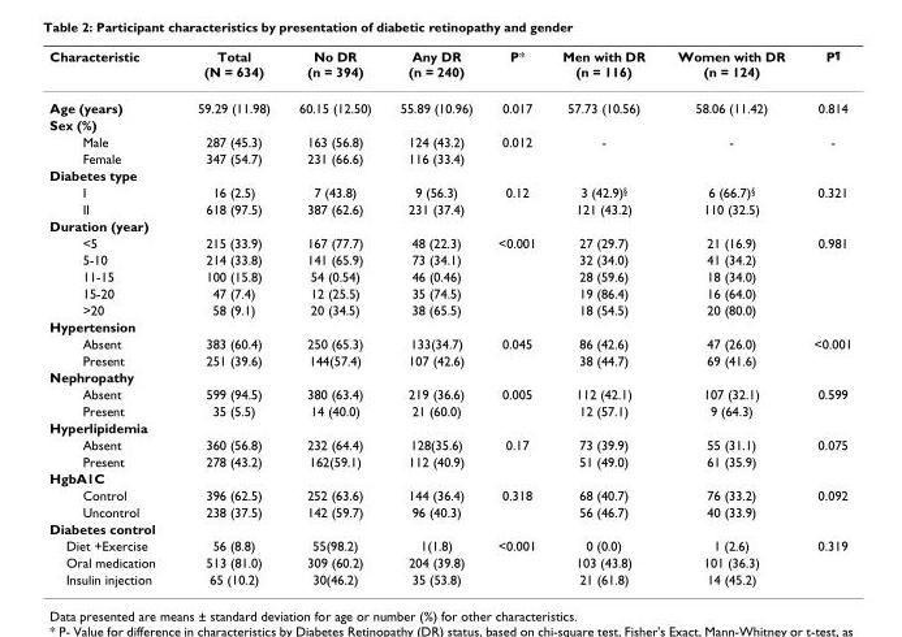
<table><thead><tr><td>Characteristic</td><td>Total (N = 634)</td><td>No DR (n = 394)</td><td>Any DR (n = 240)</td><td>P*</td><td>Men with DR (n = 116)</td><td>Women with DR (n = 124)</td><td>P<sup>¶</sup></td></tr></thead><tbody><tr><td>Age (years)</td><td>59.29 (11.98)</td><td>60.15 (12.50)</td><td>55.89 (10.96)</td><td>0.017</td><td>57.73 (10.56)</td><td>58.06 (11.42)</td><td>0.814</td></tr><tr><td colspan="8">Sex (%)</td></tr><tr><td>Male</td><td>287 (45.3)</td><td>163 (56.8)</td><td>124 (43.2)</td><td>0.012</td><td>-</td><td>-</td><td>-</td></tr><tr><td>Female</td><td>347 (54.7)</td><td>231 (66.6)</td><td>116 (33.4)</td><td></td><td></td><td></td><td></td></tr><tr><td colspan="8">Diabetes type</td></tr><tr><td>I</td><td>16 (2.5)</td><td>7 (43.8)</td><td>9 (56.3)</td><td>0.12</td><td>3 (42.9)<sup>§</sup></td><td>6 (66.7)<sup>§</sup></td><td>0.321</td></tr><tr><td>II</td><td>618 (97.5)</td><td>387 (62.6)</td><td>231 (37.4)</td><td></td><td>121 (43.2)</td><td>110 (32.5)</td><td></td></tr><tr><td colspan="8">Duration (year)</td></tr><tr><td>&lt;5</td><td>215 (33.9)</td><td>167 (77.7)</td><td>48 (22.3)</td><td>&lt;0.001</td><td>27 (29.7)</td><td>21 (16.9)</td><td>0.981</td></tr><tr><td>5-10</td><td>214 (33.8)</td><td>141 (65.9)</td><td>73 (34.1)</td><td></td><td>32 (34.0)</td><td>41 (34.2)</td><td></td></tr><tr><td>11-15</td><td>100 (15.8)</td><td>54 (0.54)</td><td>46 (0.46)</td><td></td><td>28 (59.6)</td><td>18 (34.0)</td><td></td></tr><tr><td>15-20</td><td>47 (7.4)</td><td>12 (25.5)</td><td>35 (74.5)</td><td></td><td>19 (86.4)</td><td>16 (64.0)</td><td></td></tr><tr><td>&gt;20</td><td>58 (9.1)</td><td>20 (34.5)</td><td>38 (65.5)</td><td></td><td>18 (54.5)</td><td>20 (80.0)</td><td></td></tr><tr><td colspan="8">Hypertension</td></tr><tr><td>Absent</td><td>383 (60.4)</td><td>250 (65.3)</td><td>133(34.7)</td><td>0.045</td><td>86 (42.6)</td><td>47 (26.0)</td><td>&lt;0.001</td></tr><tr><td>Present</td><td>251 (39.6)</td><td>144(57.4)</td><td>107 (42.6)</td><td></td><td>38 (44.7)</td><td>69 (41.6)</td><td></td></tr><tr><td colspan="8">Nephropathy</td></tr><tr><td>Absent</td><td>599 (94.5)</td><td>380 (63.4)</td><td>219 (36.6)</td><td>0.005</td><td>112 (42.1)</td><td>107 (32.1)</td><td>0.599</td></tr><tr><td>Present</td><td>35 (5.5)</td><td>14 (40.0)</td><td>21 (60.0)</td><td></td><td>12 (57.1)</td><td>9 (64.3)</td><td></td></tr><tr><td colspan="8">Hyperlipidemia</td></tr><tr><td>Absent</td><td>360 (56.8)</td><td>232 (64.4)</td><td>128(35.6)</td><td>0.17</td><td>73 (39.9)</td><td>55 (31.1)</td><td>0.075</td></tr><tr><td>Present</td><td>278 (43.2)</td><td>162(59.1)</td><td>112 (40.9)</td><td></td><td>51 (49.0)</td><td>61 (35.9)</td><td></td></tr><tr><td colspan="8">HgbA1C</td></tr><tr><td>Control</td><td>396 (62.5)</td><td>252 (63.6)</td><td>144 (36.4)</td><td>0.318</td><td>68 (40.7)</td><td>76 (33.2)</td><td>0.092</td></tr><tr><td>Uncontrol</td><td>238 (37.5)</td><td>142 (59.7)</td><td>96 (40.3)</td><td></td><td>56 (46.7)</td><td>40 (33.9)</td><td></td></tr><tr><td colspan="8">Diabetes control</td></tr><tr><td>Diet +Exercise</td><td>56 (8.8)</td><td>55(98.2)</td><td>1(1.8)</td><td>&lt;0.001</td><td>0 (0.0)</td><td>1 (2.6)</td><td>0.319</td></tr><tr><td>Oral medication</td><td>513 (81.0)</td><td>309 (60.2)</td><td>204 (39.8)</td><td></td><td>103 (43.8)</td><td>101 (36.3)</td><td></td></tr><tr><td>Insulin injection</td><td>65 (10.2)</td><td>30(46.2)</td><td>35 (53.8)</td><td></td><td>21 (61.8)</td><td>14 (45.2)</td><td></td></tr></tbody></table>